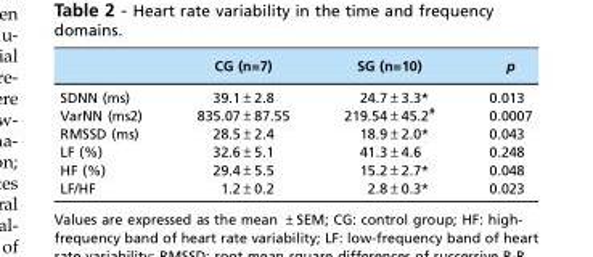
<table><thead><tr><td></td><td>CG (n=7)</td><td>SG (n=10)</td><td>p</td></tr></thead><tbody><tr><td>SDNN (ms)</td><td>39.1±2.8</td><td>24.7±3.3*</td><td>0.013</td></tr><tr><td>VarNN (ms2)</td><td>835.07±87.55</td><td>219.54±45.2#</td><td>0.0007</td></tr><tr><td>RMSSD (ms)</td><td>28.5±2.4</td><td>18.9±2.0*</td><td>0.043</td></tr><tr><td>LF (%)</td><td>32.6±5.1</td><td>41.3±4.6</td><td>0.248</td></tr><tr><td>HF (%)</td><td>29.4±5.5</td><td>15.2±2.7*</td><td>0.048</td></tr><tr><td>LF/HF</td><td>1.2±0.2</td><td>2.8±0.3*</td><td>0.023</td></tr></tbody></table>